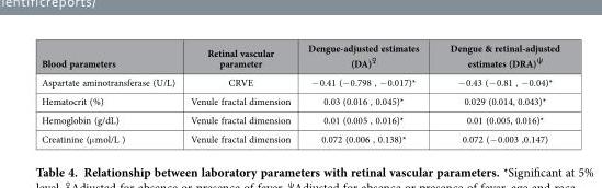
<table><thead><tr><td>Blood parameters</td><td>Retinal vascular parameter</td><td>Dengue-adjusted estimates (DA)♀</td><td>Dengue &amp; retinal-adjusted estimates (DRA)ψ</td></tr></thead><tbody><tr><td>Aspartate aminotransferase (U/L)</td><td>CRVE</td><td>− 0.41 (− 0.798 , − 0.017)*</td><td>− 0.43 (− 0.81 , − 0.04)*</td></tr><tr><td>Hematocrit (%)</td><td>Venule fractal dimension</td><td>0.03 (0.016 , 0.045)*</td><td>0.029 (0.014, 0.043)*</td></tr><tr><td>Hemoglobin (g/dL)</td><td>Venule fractal dimension</td><td>0.01 (0.005 , 0.016)*</td><td>0.01 (0.005, 0.016)*</td></tr><tr><td>Creatinine (μ mol/L )</td><td>Venule fractal dimension</td><td>0.072 (0.006 , 0.138)*</td><td>0.072 (− 0.003 ,0.147)</td></tr></tbody></table>